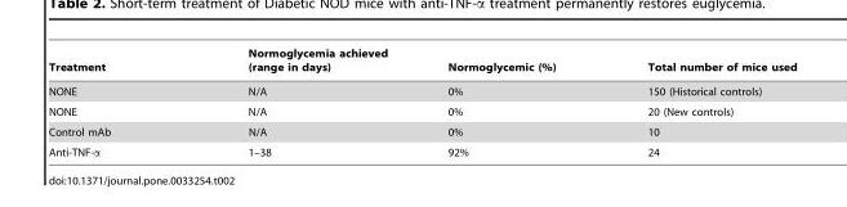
<table><thead><tr><td>Treatment</td><td>Normoglycemia achieved (range in days)</td><td>Normoglycemic (%)</td><td>Total number of mice used</td></tr></thead><tbody><tr><td>NONE</td><td>N/A</td><td>0%</td><td>150 (Historical controls)</td></tr><tr><td>NONE</td><td>N/A</td><td>0%</td><td>20 (New controls)</td></tr><tr><td>Control mAb</td><td>N/A</td><td>0%</td><td>10</td></tr><tr><td>Anti-TNF-α</td><td>1–38</td><td>92%</td><td>24</td></tr></tbody></table>